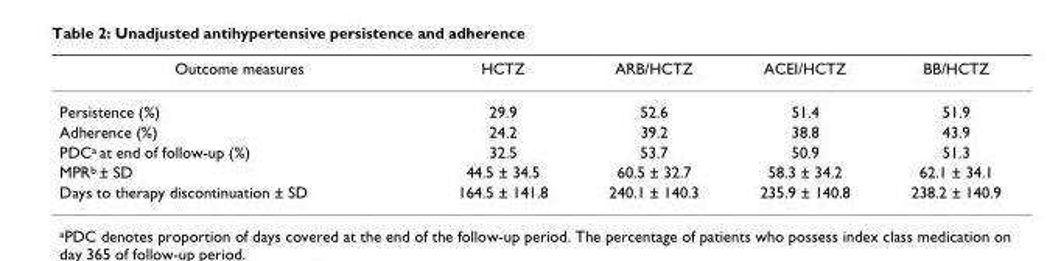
<table><thead><tr><td>Outcome measures</td><td>HCTZ</td><td>ARB/HCTZ</td><td>ACEI/HCTZ</td><td>BB/HCTZ</td></tr></thead><tbody><tr><td>Persistence (%)</td><td>29.9</td><td>52.6</td><td>51.4</td><td>51.9</td></tr><tr><td>Adherence (%)</td><td>24.2</td><td>39.2</td><td>38.8</td><td>43.9</td></tr><tr><td>PDC<sup>a</sup> at end of follow-up (%)</td><td>32.5</td><td>53.7</td><td>50.9</td><td>51.3</td></tr><tr><td>MPR<sup>b</sup> ± SD</td><td>44.5 ± 34.5</td><td>60.5 ± 32.7</td><td>58.3 ± 34.2</td><td>62.1 ± 34.1</td></tr><tr><td>Days to therapy discontinuation ± SD</td><td>164.5 ± 141.8</td><td>240.1 ± 140.3</td><td>235.9 ± 140.8</td><td>238.2 ± 140.9</td></tr></tbody></table>